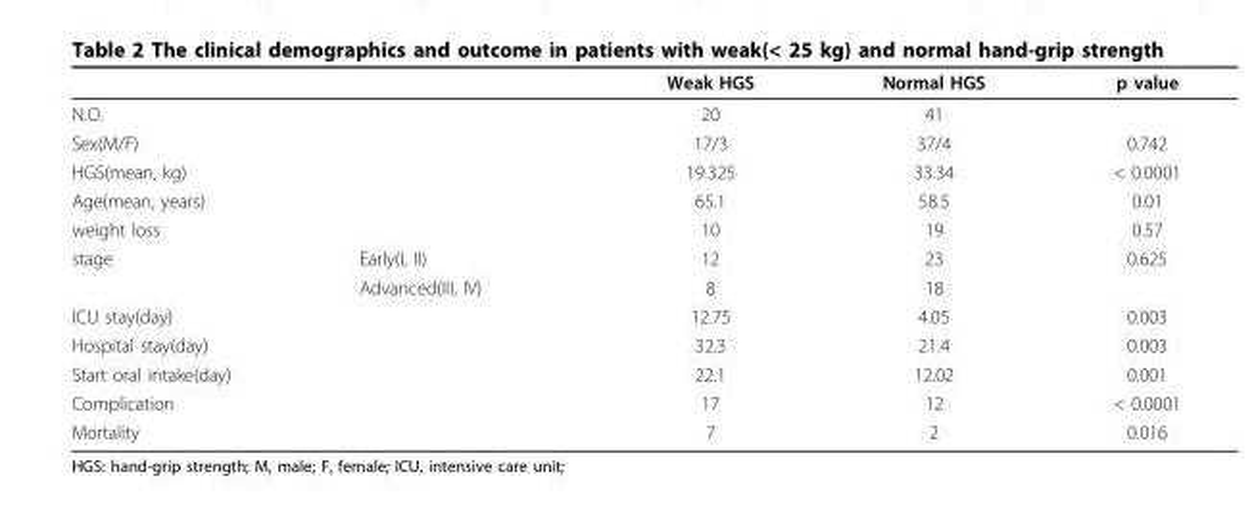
<table><thead><tr><td></td><td></td><td>Weak HGS</td><td>Normal HGS</td><td>p value</td></tr></thead><tbody><tr><td>N.O.</td><td></td><td>20</td><td>41</td><td></td></tr><tr><td>Sex(M/F)</td><td></td><td>17/3</td><td>37/4</td><td>0.742</td></tr><tr><td>HGS(mean, kg)</td><td></td><td>19.325</td><td>33.34</td><td>&lt; 0.0001</td></tr><tr><td>Age(mean, years)</td><td></td><td>65.1</td><td>58.5</td><td>0.01</td></tr><tr><td>weight loss</td><td></td><td>10</td><td>19</td><td>0.57</td></tr><tr><td rowspan="2">stage</td><td>Early(I, II)</td><td>12</td><td>23</td><td>0.625</td></tr><tr><td>Advanced(III, IV)</td><td>8</td><td>18</td><td></td></tr><tr><td>ICU stay(day)</td><td></td><td>12.75</td><td>4.05</td><td>0.003</td></tr><tr><td>Hospital stay(day)</td><td></td><td>32.3</td><td>21.4</td><td>0.003</td></tr><tr><td>Start oral intake(day)</td><td></td><td>22.1</td><td>12.02</td><td>0.001</td></tr><tr><td>Complication</td><td></td><td>17</td><td>12</td><td>&lt; 0.0001</td></tr><tr><td>Mortality</td><td></td><td>7</td><td>2</td><td>0.016</td></tr></tbody></table>